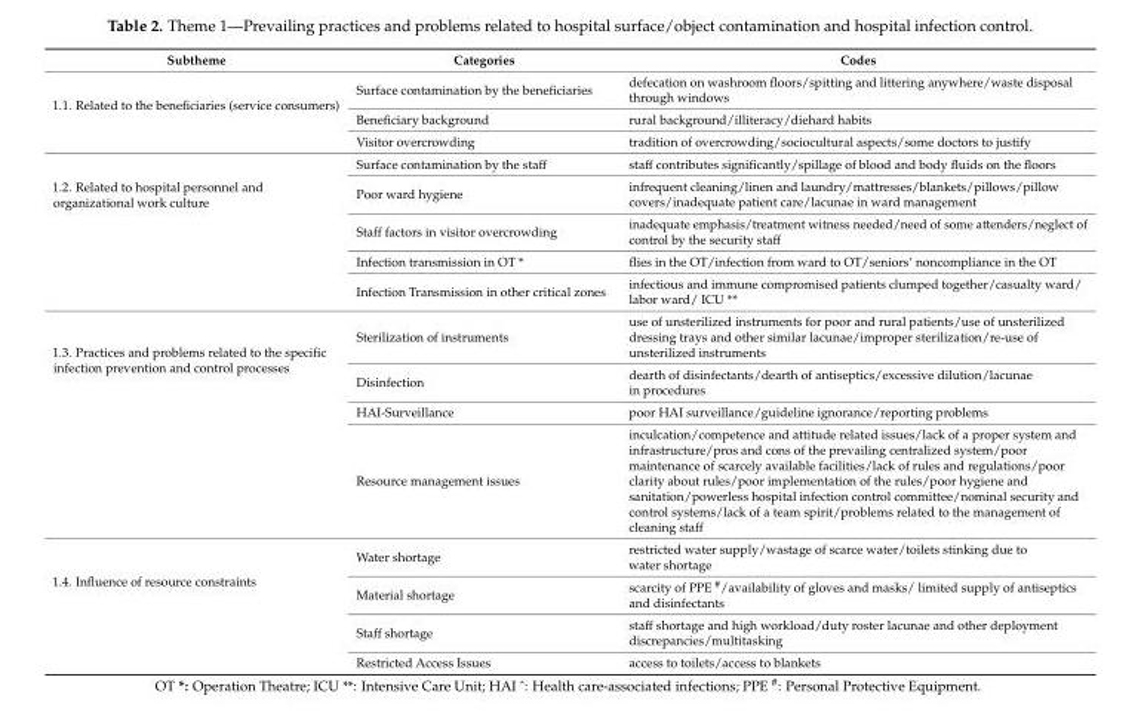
<table><thead><tr><td>Subtheme</td><td>Categories</td><td>Codes</td></tr></thead><tbody><tr><td rowspan="3">1.1. Related to the beneficiaries (service consumers)</td><td>Surface contamination by the beneficiaries</td><td>defecation on washroom floors/spitting and littering anywhere/waste disposal through windows</td></tr><tr><td>Beneficiary background</td><td>rural background/illiteracy/diehard habits</td></tr><tr><td>Visitor overcrowding</td><td>tradition of overcrowding/sociocultural aspects/some doctors to justify</td></tr><tr><td rowspan="5">1.2. Related to hospital personnel and organizational work culture</td><td>Surface contamination by the staff</td><td>staff contributes significantly/spillage of blood and body fluids on the floors</td></tr><tr><td>Poor ward hygiene</td><td>infrequent cleaning/linen and laundry/mattresses/blankets/pillows/pillow covers/inadequate patient care/lacunae in ward management</td></tr><tr><td>Staff factors in visitor overcrowding</td><td>inadequate emphasis/treatment witness needed/need of some attenders/neglect of control by the security staff</td></tr><tr><td>Infection transmission in OT *</td><td>flies in the OT/infection from ward to OT/seniors’ noncompliance in the OT</td></tr><tr><td>Infection Transmission in other critical zones</td><td>infectious and immune compromised patients clumped together/casualty ward/ labor ward/ ICU **</td></tr><tr><td rowspan="4">1.3. Practices and problems related to the specific infection prevention and control processes</td><td>Sterilization of instruments</td><td>use of unsterilized instruments for poor and rural patients/use of unsterilized dressing trays and other similar lacunae/improper sterilization/re-use of unsterilized instruments</td></tr><tr><td>Disinfection</td><td>dearth of disinfectants/dearth of antiseptics/excessive dilution/lacunae in procedures</td></tr><tr><td>HAI-Surveillance</td><td>poor HAI surveillance/guideline ignorance/reporting problems</td></tr><tr><td>Resource management issues</td><td>inculcation/competence and attitude related issues/lack of a proper system and infrastructure/pros and cons of the prevailing centralized system/poor maintenance of scarcely available facilities/lack of rules and regulations/poor clarity about rules/poor implementation of the rules/poor hygiene and sanitation/powerless hospital infection control committee/nominal security and control systems/lack of a team spirit/problems related to the management of cleaning staff</td></tr><tr><td rowspan="4">1.4. Influence of resource constraints</td><td>Water shortage</td><td>restricted water supply/wastage of scarce water/toilets stinking due to water shortage</td></tr><tr><td>Material shortage</td><td>scarcity of PPE <sup>#</sup>/availability of gloves and masks/ limited supply of antiseptics and disinfectants</td></tr><tr><td>Staff shortage</td><td>staff shortage and high workload/duty roster lacunae and other deployment discrepancies/multitasking</td></tr><tr><td>Restricted Access Issues</td><td>access to toilets/access to blankets</td></tr></tbody></table>